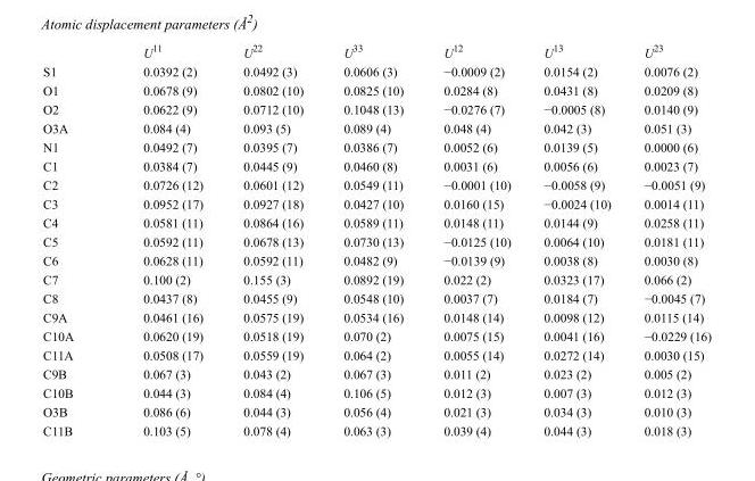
<table><thead><tr><td></td><td>U<sup>11</sup></td><td>U<sup>22</sup></td><td>U<sup>33</sup></td><td>U<sup>12</sup></td><td>U<sup>13</sup></td><td>U<sup>23</sup></td></tr></thead><tbody><tr><td>S1</td><td>0.0392 (2)</td><td>0.0492 (3)</td><td>0.0606 (3)</td><td>−0.0009 (2)</td><td>0.0154 (2)</td><td>0.0076 (2)</td></tr><tr><td>O1</td><td>0.0678 (9)</td><td>0.0802 (10)</td><td>0.0825 (10)</td><td>0.0284 (8)</td><td>0.0431 (8)</td><td>0.0209 (8)</td></tr><tr><td>O2</td><td>0.0622 (9)</td><td>0.0712 (10)</td><td>0.1048 (13)</td><td>−0.0276 (7)</td><td>−0.0005 (8)</td><td>0.0140 (9)</td></tr><tr><td>O3A</td><td>0.084 (4)</td><td>0.093 (5)</td><td>0.089 (4)</td><td>0.048 (4)</td><td>0.042 (3)</td><td>0.051 (3)</td></tr><tr><td>N1</td><td>0.0492 (7)</td><td>0.0395 (7)</td><td>0.0386 (7)</td><td>0.0052 (6)</td><td>0.0139 (5)</td><td>0.0000 (6)</td></tr><tr><td>C1</td><td>0.0384 (7)</td><td>0.0445 (9)</td><td>0.0460 (8)</td><td>0.0031 (6)</td><td>0.0056 (6)</td><td>0.0023 (7)</td></tr><tr><td>C2</td><td>0.0726 (12)</td><td>0.0601 (12)</td><td>0.0549 (11)</td><td>−0.0001 (10)</td><td>−0.0058 (9)</td><td>−0.0051 (9)</td></tr><tr><td>C3</td><td>0.0952 (17)</td><td>0.0927 (18)</td><td>0.0427 (10)</td><td>0.0160 (15)</td><td>−0.0024 (10)</td><td>0.0014 (11)</td></tr><tr><td>C4</td><td>0.0581 (11)</td><td>0.0864 (16)</td><td>0.0589 (11)</td><td>0.0148 (11)</td><td>0.0144 (9)</td><td>0.0258 (11)</td></tr><tr><td>C5</td><td>0.0592 (11)</td><td>0.0678 (13)</td><td>0.0730 (13)</td><td>−0.0125 (10)</td><td>0.0064 (10)</td><td>0.0181 (11)</td></tr><tr><td>C6</td><td>0.0628 (11)</td><td>0.0592 (11)</td><td>0.0482 (9)</td><td>−0.0139 (9)</td><td>0.0038 (8)</td><td>0.0030 (8)</td></tr><tr><td>C7</td><td>0.100 (2)</td><td>0.155 (3)</td><td>0.0892 (19)</td><td>0.022 (2)</td><td>0.0323 (17)</td><td>0.066 (2)</td></tr><tr><td>C8</td><td>0.0437 (8)</td><td>0.0455 (9)</td><td>0.0548 (10)</td><td>0.0037 (7)</td><td>0.0184 (7)</td><td>−0.0045 (7)</td></tr><tr><td>C9A</td><td>0.0461 (16)</td><td>0.0575 (19)</td><td>0.0534 (16)</td><td>0.0148 (14)</td><td>0.0098 (12)</td><td>0.0115 (14)</td></tr><tr><td>C10A</td><td>0.0620 (19)</td><td>0.0518 (19)</td><td>0.070 (2)</td><td>0.0075 (15)</td><td>0.0041 (16)</td><td>−0.0229 (16)</td></tr><tr><td>C11A</td><td>0.0508 (17)</td><td>0.0559 (19)</td><td>0.064 (2)</td><td>0.0055 (14)</td><td>0.0272 (14)</td><td>0.0030 (15)</td></tr><tr><td>C9B</td><td>0.067 (3)</td><td>0.043 (2)</td><td>0.067 (3)</td><td>0.011 (2)</td><td>0.023 (2)</td><td>0.005 (2)</td></tr><tr><td>C10B</td><td>0.044 (3)</td><td>0.084 (4)</td><td>0.106 (5)</td><td>0.012 (3)</td><td>0.007 (3)</td><td>0.012 (3)</td></tr><tr><td>O3B</td><td>0.086 (6)</td><td>0.044 (3)</td><td>0.056 (4)</td><td>0.021 (3)</td><td>0.034 (3)</td><td>0.010 (3)</td></tr><tr><td>C11B</td><td>0.103 (5)</td><td>0.078 (4)</td><td>0.063 (3)</td><td>0.039 (4)</td><td>0.044 (3)</td><td>0.018 (3)</td></tr></tbody></table>